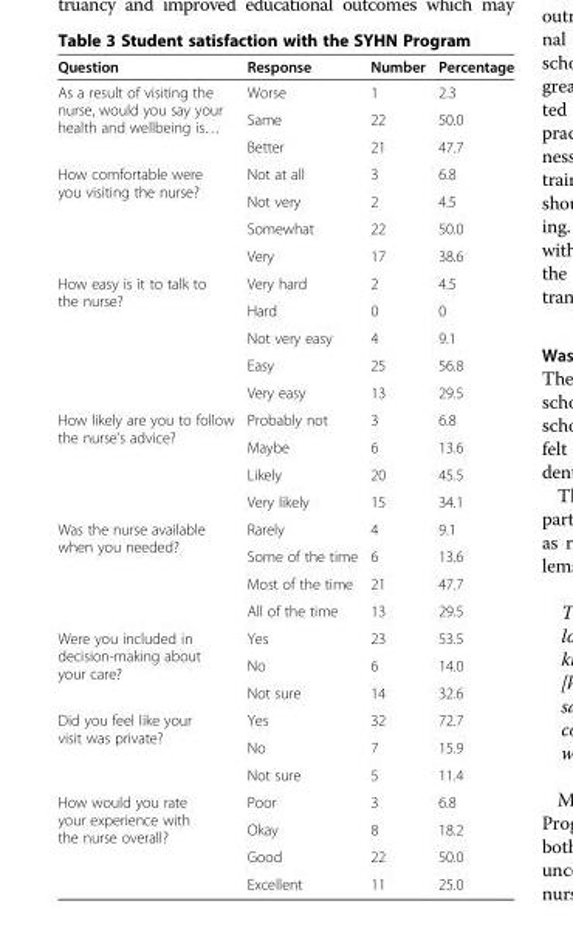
<table><thead><tr><td>Question</td><td>Response</td><td>Number</td><td>Percentage</td></tr></thead><tbody><tr><td rowspan="3">As a result of visiting the nurse, would you say your health and wellbeing is…</td><td>Worse</td><td>1</td><td>2.3</td></tr><tr><td>Same</td><td>22</td><td>50.0</td></tr><tr><td>Better</td><td>21</td><td>47.7</td></tr><tr><td rowspan="4">How comfortable were you visiting the nurse?</td><td>Not at all</td><td>3</td><td>6.8</td></tr><tr><td>Not very</td><td>2</td><td>4.5</td></tr><tr><td>Somewhat</td><td>22</td><td>50.0</td></tr><tr><td>Very</td><td>17</td><td>38.6</td></tr><tr><td rowspan="5">How easy is it to talk to the nurse?</td><td>Very hard</td><td>2</td><td>4.5</td></tr><tr><td>Hard</td><td>0</td><td>0</td></tr><tr><td>Not very easy</td><td>4</td><td>9.1</td></tr><tr><td>Easy</td><td>25</td><td>56.8</td></tr><tr><td>Very easy</td><td>13</td><td>29.5</td></tr><tr><td rowspan="4">How likely are you to follow the nurse’s advice?</td><td>Probably not</td><td>3</td><td>6.8</td></tr><tr><td>Maybe</td><td>6</td><td>13.6</td></tr><tr><td>Likely</td><td>20</td><td>45.5</td></tr><tr><td>Very likely</td><td>15</td><td>34.1</td></tr><tr><td rowspan="4">Was the nurse available when you needed?</td><td>Rarely</td><td>4</td><td>9.1</td></tr><tr><td>Some of the time</td><td>6</td><td>13.6</td></tr><tr><td>Most of the time</td><td>21</td><td>47.7</td></tr><tr><td>All of the time</td><td>13</td><td>29.5</td></tr><tr><td rowspan="3">Were you included in decision-making about your care?</td><td>Yes</td><td>23</td><td>53.5</td></tr><tr><td>No</td><td>6</td><td>14.0</td></tr><tr><td>Not sure</td><td>14</td><td>32.6</td></tr><tr><td rowspan="3">Did you feel like your visit was private?</td><td>Yes</td><td>32</td><td>72.7</td></tr><tr><td>No</td><td>7</td><td>15.9</td></tr><tr><td>Not sure</td><td>5</td><td>11.4</td></tr><tr><td rowspan="4">How would you rate your experience with the nurse overall?</td><td>Poor</td><td>3</td><td>6.8</td></tr><tr><td>Okay</td><td>8</td><td>18.2</td></tr><tr><td>Good</td><td>22</td><td>50.0</td></tr><tr><td>Excellent</td><td>11</td><td>25.0</td></tr></tbody></table>